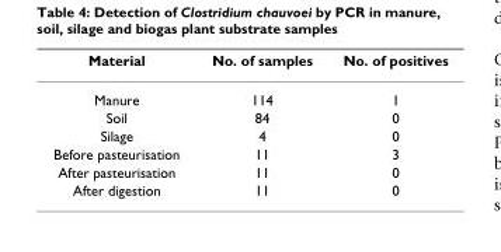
<table><thead><tr><td>Material</td><td>No. of samples</td><td>No. of positives</td></tr></thead><tbody><tr><td>Manure</td><td>114</td><td>1</td></tr><tr><td>Soil</td><td>84</td><td>0</td></tr><tr><td>Silage</td><td>4</td><td>0</td></tr><tr><td>Before pasteurisation</td><td>11</td><td>3</td></tr><tr><td>After pasteurisation</td><td>11</td><td>0</td></tr><tr><td>After digestion</td><td>11</td><td>0</td></tr></tbody></table>